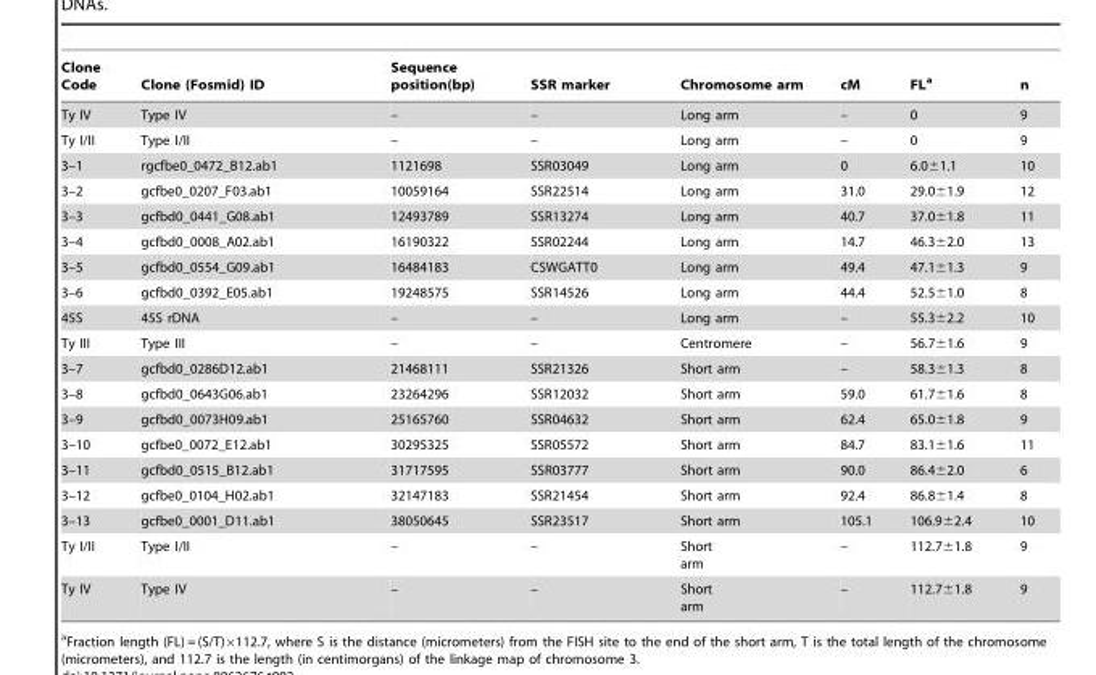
<table><thead><tr><td>Clone Code</td><td>Clone (Fosmid) ID</td><td>Sequence position(bp)</td><td>SSR marker</td><td>Chromosome arm</td><td>cM</td><td>FL<sup>a</sup></td><td>n</td></tr></thead><tbody><tr><td>Ty IV</td><td>Type IV</td><td>–</td><td>–</td><td>Long arm</td><td>–</td><td>0</td><td>9</td></tr><tr><td>Ty I/II</td><td>Type I/II</td><td>–</td><td>–</td><td>Long arm</td><td>–</td><td>0</td><td>9</td></tr><tr><td>3–1</td><td>rgcfbe0_0472_B12.ab1</td><td>1121698</td><td>SSR03049</td><td>Long arm</td><td>0</td><td>6.0±1.1</td><td>10</td></tr><tr><td>3–2</td><td>gcfbe0_0207_F03.ab1</td><td>10059164</td><td>SSR22514</td><td>Long arm</td><td>31.0</td><td>29.0±1.9</td><td>12</td></tr><tr><td>3–3</td><td>gcfbd0_0441_G08.ab1</td><td>12493789</td><td>SSR13274</td><td>Long arm</td><td>40.7</td><td>37.0±1.8</td><td>11</td></tr><tr><td>3–4</td><td>gcfbd0_0008_A02.ab1</td><td>16190322</td><td>SSR02244</td><td>Long arm</td><td>14.7</td><td>46.3±2.0</td><td>13</td></tr><tr><td>3–5</td><td>gcfbd0_0554_G09.ab1</td><td>16484183</td><td>CSWGATT0</td><td>Long arm</td><td>49.4</td><td>47.1±1.3</td><td>9</td></tr><tr><td>3–6</td><td>gcfbd0_0392_E05.ab1</td><td>19248575</td><td>SSR14526</td><td>Long arm</td><td>44.4</td><td>52.5±1.0</td><td>8</td></tr><tr><td>45S</td><td>45S rDNA</td><td>–</td><td>–</td><td>Long arm</td><td>–</td><td>55.3±2.2</td><td>10</td></tr><tr><td>Ty III</td><td>Type III</td><td>–</td><td>–</td><td>Centromere</td><td>–</td><td>56.7±1.6</td><td>9</td></tr><tr><td>3–7</td><td>gcfbd0_0286D12.ab1</td><td>21468111</td><td>SSR21326</td><td>Short arm</td><td>–</td><td>58.3±1.3</td><td>8</td></tr><tr><td>3–8</td><td>gcfbd0_0643G06.ab1</td><td>23264296</td><td>SSR12032</td><td>Short arm</td><td>59.0</td><td>61.7±1.6</td><td>8</td></tr><tr><td>3–9</td><td>gcfbd0_0073H09.ab1</td><td>25165760</td><td>SSR04632</td><td>Short arm</td><td>62.4</td><td>65.0±1.8</td><td>9</td></tr><tr><td>3–10</td><td>gcfbe0_0072_E12.ab1</td><td>30295325</td><td>SSR05572</td><td>Short arm</td><td>84.7</td><td>83.1±1.6</td><td>11</td></tr><tr><td>3–11</td><td>gcfbd0_0515_B12.ab1</td><td>31717595</td><td>SSR03777</td><td>Short arm</td><td>90.0</td><td>86.4±2.0</td><td>6</td></tr><tr><td>3–12</td><td>gcfbe0_0104_H02.ab1</td><td>32147183</td><td>SSR21454</td><td>Short arm</td><td>92.4</td><td>86.8±1.4</td><td>8</td></tr><tr><td>3–13</td><td>gcfbe0_0001_D11.ab1</td><td>38050645</td><td>SSR23517</td><td>Short arm</td><td>105.1</td><td>106.9±2.4</td><td>10</td></tr><tr><td>Ty I/II</td><td>Type I/II</td><td>–</td><td>–</td><td>Short arm</td><td>–</td><td>112.7±1.8</td><td>9</td></tr><tr><td>Ty IV</td><td>Type IV</td><td>–</td><td>–</td><td>Short arm</td><td>–</td><td>112.7±1.8</td><td>9</td></tr></tbody></table>